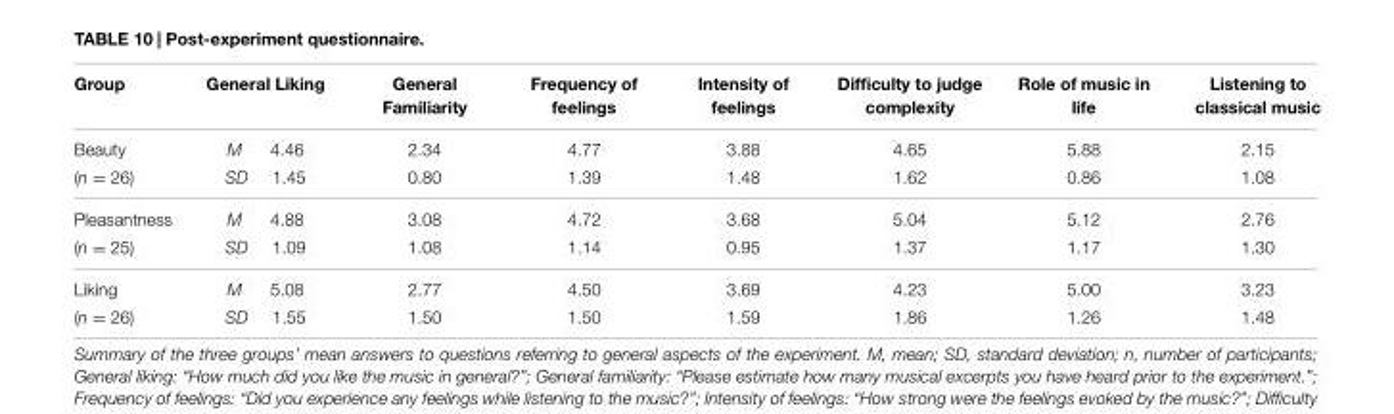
<table><thead><tr><td rowspan="2">Group Beauty</td><td colspan="2">General Liking</td><td rowspan="2">General Familiarity 2.34</td><td rowspan="2">Frequency of feelings 4.77</td><td rowspan="2">Intensity of feelings 3.88</td><td rowspan="2">Difficulty to judge complexity 4.65</td><td rowspan="2">Role of music in life 5.88</td><td rowspan="2">Listening to classical music 2.15</td></tr><tr><td>M</td><td>4.46</td></tr></thead><tbody><tr><td>(n = 26)</td><td>SD</td><td>1.45</td><td>0.80</td><td>1.39</td><td>1.48</td><td>1.62</td><td>0.86</td><td>1.08</td></tr><tr><td>Pleasantness</td><td>M</td><td>4.88</td><td>3.08</td><td>4.72</td><td>3.68</td><td>5.04</td><td>5.12</td><td>2.76</td></tr><tr><td>(n = 25)</td><td>SD</td><td>1.09</td><td>1.08</td><td>1.14</td><td>0.95</td><td>1.37</td><td>1.17</td><td>1.30</td></tr><tr><td>Liking</td><td>M</td><td>5.08</td><td>2.77</td><td>4.50</td><td>3.69</td><td>4.23</td><td>5.00</td><td>3.23</td></tr><tr><td>(n = 26)</td><td>SD</td><td>1.55</td><td>1.50</td><td>1.50</td><td>1.59</td><td>1.86</td><td>1.26</td><td>1.48</td></tr></tbody></table>